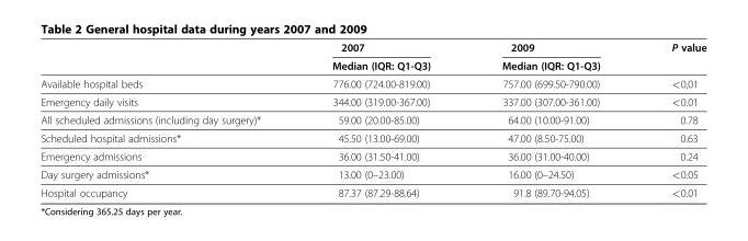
<table><thead><tr><td rowspan="2"></td><td rowspan="2">2007 Median (IQR: Q1-Q3)</td><td rowspan="2">2009 Median (IQR: Q1-Q3)</td><td rowspan="2">P value</td></tr><tr></tr></thead><tbody><tr><td>Available hospital beds</td><td>776.00 (724.00-819.00)</td><td>757.00 (699.50-790.00)</td><td>&lt;0,01</td></tr><tr><td>Emergency daily visits</td><td>344.00 (319.00-367.00)</td><td>337.00 (307.00-361.00)</td><td>&lt;0.01</td></tr><tr><td>All scheduled admissions (including day surgery)*</td><td>59.00 (20.00-85.00)</td><td>64.00 (10.00-91.00)</td><td>0.78</td></tr><tr><td>Scheduled hospital admissions*</td><td>45.50 (13.00-69.00)</td><td>47.00 (8.50-75.00)</td><td>0.63</td></tr><tr><td>Emergency admissions</td><td>36.00 (31.50-41.00)</td><td>36.00 (31.00-40.00)</td><td>0.24</td></tr><tr><td>Day surgery admissions*</td><td>13.00 (0–23.00)</td><td>16.00 (0–24.50)</td><td>&lt;0.05</td></tr><tr><td>Hospital occupancy</td><td>87.37 (87.29-88.64)</td><td>91.8 (89.70-94.05)</td><td>&lt;0.01</td></tr></tbody></table>